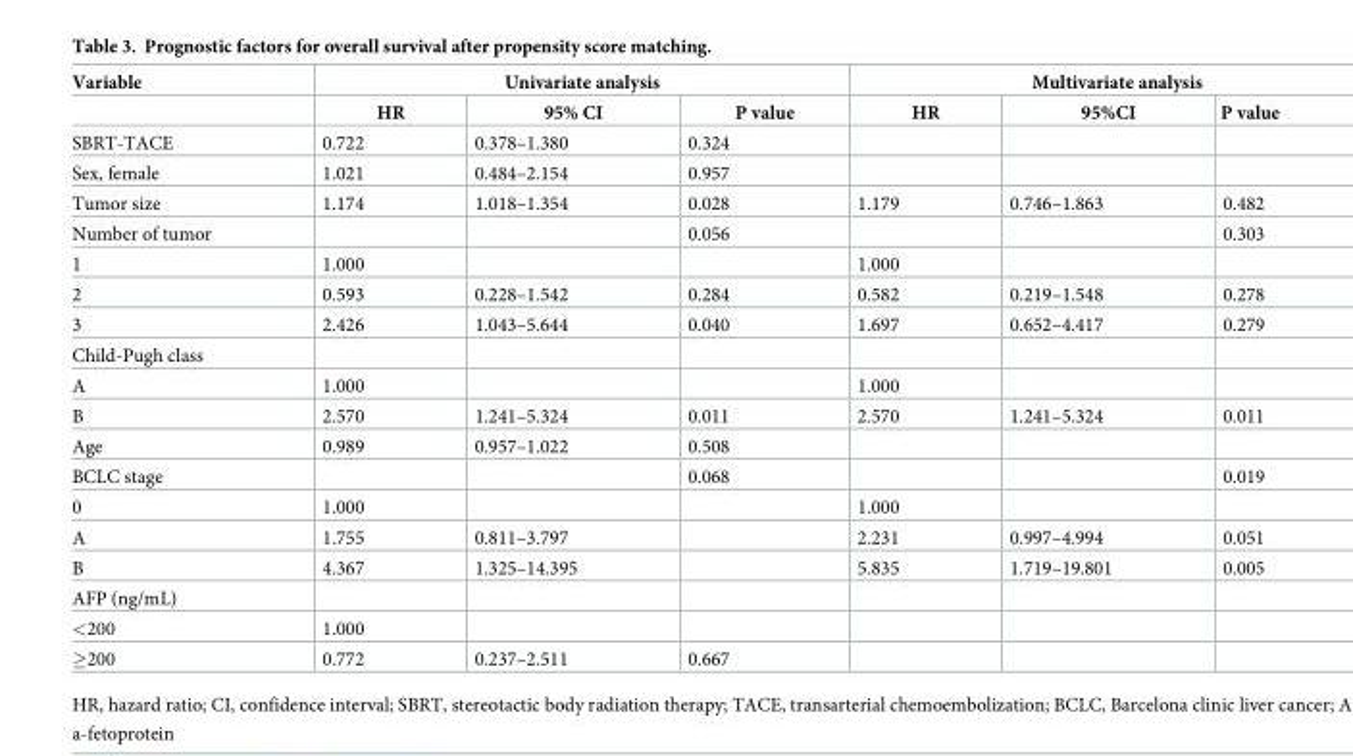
<table><thead><tr><td rowspan="2">Variable</td><td colspan="3">Univariate analysis</td><td colspan="3">Multivariate analysis</td></tr><tr><td>HR</td><td>95% CI</td><td>P value</td><td>HR</td><td>95%CI</td><td>P value</td></tr></thead><tbody><tr><td>SBRT-TACE</td><td>0.722</td><td>0.378–1.380</td><td>0.324</td><td></td><td></td><td></td></tr><tr><td>Sex, female</td><td>1.021</td><td>0.484–2.154</td><td>0.957</td><td></td><td></td><td></td></tr><tr><td>Tumor size</td><td>1.174</td><td>1.018–1.354</td><td>0.028</td><td>1.179</td><td>0.746–1.863</td><td>0.482</td></tr><tr><td>Number of tumor</td><td></td><td></td><td>0.056</td><td></td><td></td><td>0.303</td></tr><tr><td>1</td><td>1.000</td><td></td><td></td><td>1.000</td><td></td><td></td></tr><tr><td>2</td><td>0.593</td><td>0.228–1.542</td><td>0.284</td><td>0.582</td><td>0.219–1.548</td><td>0.278</td></tr><tr><td>3</td><td>2.426</td><td>1.043–5.644</td><td>0.040</td><td>1.697</td><td>0.652–4.417</td><td>0.279</td></tr><tr><td colspan="7">Child-Pugh class</td></tr><tr><td>A</td><td>1.000</td><td></td><td></td><td>1.000</td><td></td><td></td></tr><tr><td>B</td><td>2.570</td><td>1.241–5.324</td><td>0.011</td><td>2.570</td><td>1.241–5.324</td><td>0.011</td></tr><tr><td>Age</td><td>0.989</td><td>0.957–1.022</td><td>0.508</td><td></td><td></td><td></td></tr><tr><td>BCLC stage</td><td></td><td></td><td>0.068</td><td></td><td></td><td>0.019</td></tr><tr><td>0</td><td>1.000</td><td></td><td></td><td>1.000</td><td></td><td></td></tr><tr><td>A</td><td>1.755</td><td>0.811–3.797</td><td></td><td>2.231</td><td>0.997–4.994</td><td>0.051</td></tr><tr><td>B</td><td>4.367</td><td>1.325–14.395</td><td></td><td>5.835</td><td>1.719–19.801</td><td>0.005</td></tr><tr><td colspan="7">AFP (ng/mL)</td></tr><tr><td>&lt;200</td><td>1.000</td><td></td><td></td><td></td><td></td><td></td></tr><tr><td>≥200</td><td>0.772</td><td>0.237–2.511</td><td>0.667</td><td></td><td></td><td></td></tr></tbody></table>